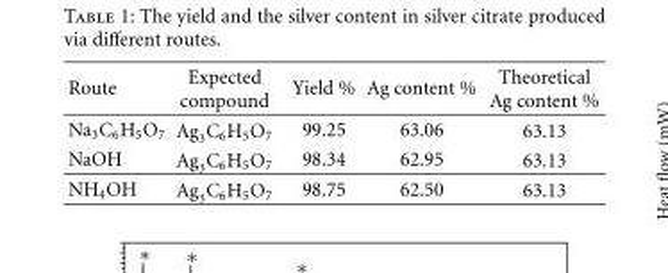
<table><thead><tr><td>Route</td><td>Expected compound</td><td>Yield %</td><td>Ag content %</td><td>Theoretical Ag content %</td></tr></thead><tbody><tr><td>Na<sub>3</sub>C<sub>6</sub>H<sub>5</sub>O<sub>7</sub></td><td>Ag<sub>3</sub>C<sub>6</sub>H<sub>5</sub>O<sub>7</sub></td><td>99.25</td><td>63.06</td><td>63.13</td></tr><tr><td>NaOH</td><td>Ag<sub>3</sub>C<sub>6</sub>H<sub>5</sub>O<sub>7</sub></td><td>98.34</td><td>62.95</td><td>63.13</td></tr><tr><td>NH<sub>4</sub>OH</td><td>Ag<sub>3</sub>C<sub>6</sub>H<sub>5</sub>O<sub>7</sub></td><td>98.75</td><td>62.50</td><td>63.13</td></tr></tbody></table>